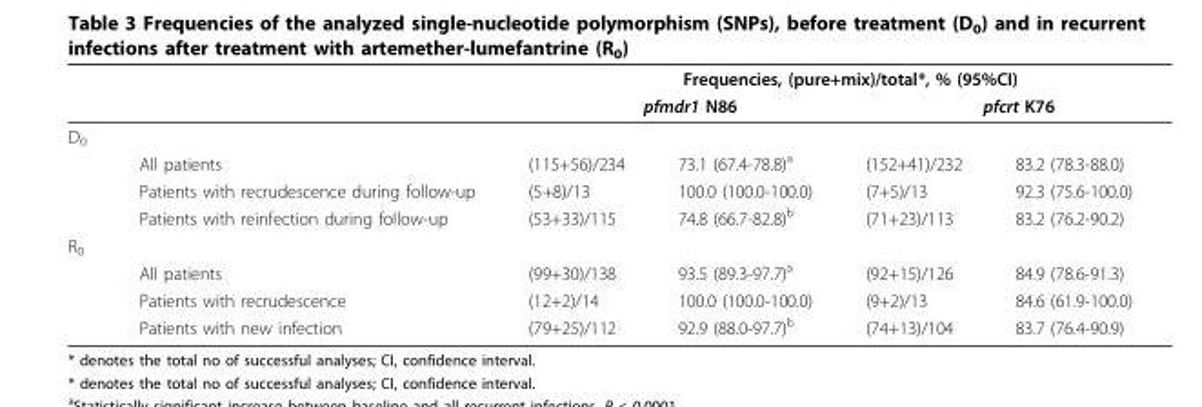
<table><thead><tr><td rowspan="3">D<sub>0</sub></td><td rowspan="3"></td><td colspan="4">Frequencies, (pure+mix)/total*, % (95%CI)</td></tr><tr><td colspan="2">pfmdr1 N86</td><td colspan="2">pfcrt K76</td></tr><tr><td></td><td></td><td></td><td></td></tr></thead><tbody><tr><td></td><td>All patients</td><td>(115+56)/234</td><td>73.1 (67.4-78.8)<sup>a</sup></td><td>(152+41)/232</td><td>83.2 (78.3-88.0)</td></tr><tr><td></td><td>Patients with recrudescence during follow-up</td><td>(5+8)/13</td><td>100.0 (100.0-100.0)</td><td>(7+5)/13</td><td>92.3 (75.6-100.0)</td></tr><tr><td></td><td>Patients with reinfection during follow-up</td><td>(53+33)/115</td><td>74.8 (66.7-82.8)<sup>b</sup></td><td>(71+23)/113</td><td>83.2 (76.2-90.2)</td></tr><tr><td colspan="6">R<sub>0</sub></td></tr><tr><td></td><td>All patients</td><td>(99+30)/138</td><td>93.5 (89.3-97.7)<sup>a</sup></td><td>(92+15)/126</td><td>84.9 (78.6-91.3)</td></tr><tr><td></td><td>Patients with recrudescence</td><td>(12+2)/14</td><td>100.0 (100.0-100.0)</td><td>(9+2)/13</td><td>84.6 (61.9-100.0)</td></tr><tr><td></td><td>Patients with new infection</td><td>(79+25)/112</td><td>92.9 (88.0-97.7)<sup>b</sup></td><td>(74+13)/104</td><td>83.7 (76.4-90.9)</td></tr></tbody></table>